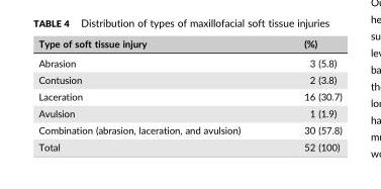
<table><thead><tr><td>Type of soft tissue injury</td><td>(%)</td></tr></thead><tbody><tr><td>Abrasion</td><td>3 (5.8)</td></tr><tr><td>Contusion</td><td>2 (3.8)</td></tr><tr><td>Laceration</td><td>16 (30.7)</td></tr><tr><td>Avulsion</td><td>1 (1.9)</td></tr><tr><td>Combination (abrasion, laceration, and avulsion)</td><td>30 (57.8)</td></tr><tr><td>Total</td><td>52 (100)</td></tr></tbody></table>